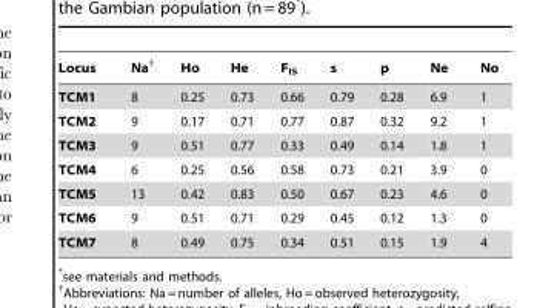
<table><thead><tr><td>Locus</td><td>Na†</td><td>Ho</td><td>He</td><td>F<sub>IS</sub></td><td>s</td><td>p</td><td>Ne</td><td>No</td></tr></thead><tbody><tr><td>TCM1</td><td>8</td><td>0.25</td><td>0.73</td><td>0.66</td><td>0.79</td><td>0.28</td><td>6.9</td><td>1</td></tr><tr><td>TCM2</td><td>9</td><td>0.17</td><td>0.71</td><td>0.77</td><td>0.87</td><td>0.32</td><td>9.2</td><td>1</td></tr><tr><td>TCM3</td><td>9</td><td>0.51</td><td>0.77</td><td>0.33</td><td>0.49</td><td>0.14</td><td>1.8</td><td>1</td></tr><tr><td>TCM4</td><td>6</td><td>0.25</td><td>0.56</td><td>0.58</td><td>0.73</td><td>0.21</td><td>3.9</td><td>0</td></tr><tr><td>TCM5</td><td>13</td><td>0.42</td><td>0.83</td><td>0.50</td><td>0.67</td><td>0.23</td><td>4.6</td><td>0</td></tr><tr><td>TCM6</td><td>9</td><td>0.51</td><td>0.71</td><td>0.29</td><td>0.45</td><td>0.12</td><td>1.3</td><td>0</td></tr><tr><td>TCM7</td><td>8</td><td>0.49</td><td>0.75</td><td>0.34</td><td>0.51</td><td>0.15</td><td>1.9</td><td>4</td></tr></tbody></table>